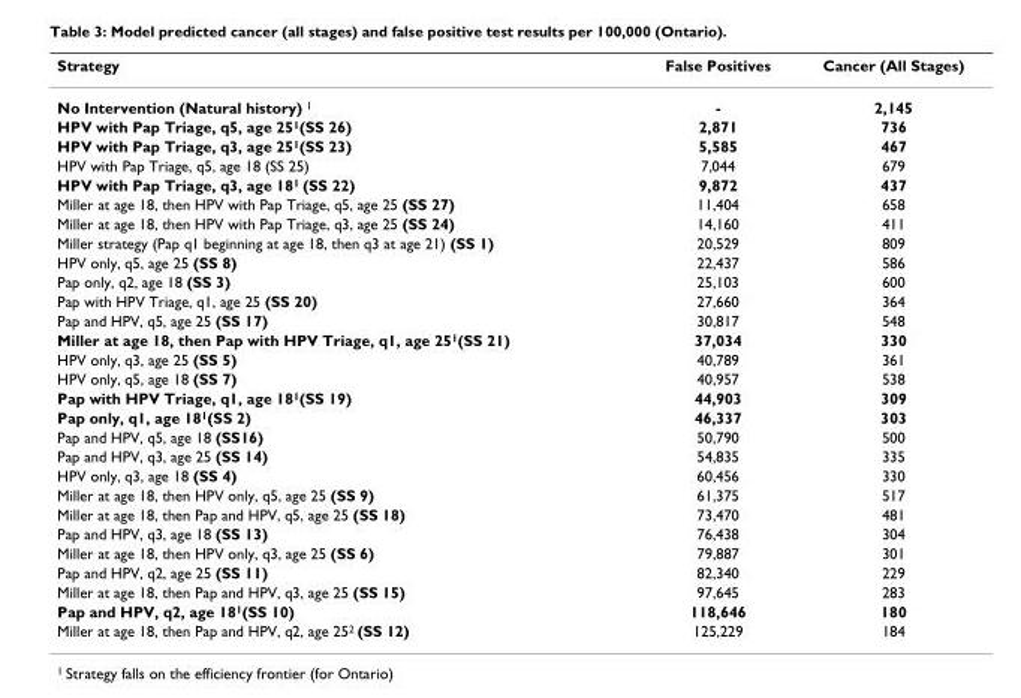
<table><thead><tr><td>Strategy</td><td>False Positives</td><td>Cancer (All Stages)</td></tr></thead><tbody><tr><td>No Intervention (Natural history) <sup>1</sup></td><td>-</td><td>2,145</td></tr><tr><td>HPV with Pap Triage, q5, age 25<sup>1</sup>(SS 26)</td><td>2,871</td><td>736</td></tr><tr><td>HPV with Pap Triage, q3, age 25<sup>1</sup>(SS 23)</td><td>5,585</td><td>467</td></tr><tr><td>HPV with Pap Triage, q5, age 18 (SS 25)</td><td>7,044</td><td>679</td></tr><tr><td>HPV with Pap Triage, q3, age 18<sup>1</sup> (SS 22)</td><td>9,872</td><td>437</td></tr><tr><td>Miller at age 18, then HPV with Pap Triage, q5, age 25 (SS 27)</td><td>11,404</td><td>658</td></tr><tr><td>Miller at age 18, then HPV with Pap Triage, q3, age 25 (SS 24)</td><td>14,160</td><td>411</td></tr><tr><td>Miller strategy (Pap q1 beginning at age 18, then q3 at age 21) (SS 1)</td><td>20,529</td><td>809</td></tr><tr><td>HPV only, q5, age 25 (SS 8)</td><td>22,437</td><td>586</td></tr><tr><td>Pap only, q2, age 18 (SS 3)</td><td>25,103</td><td>600</td></tr><tr><td>Pap with HPV Triage, q1, age 25 (SS 20)</td><td>27,660</td><td>364</td></tr><tr><td>Pap and HPV, q5, age 25 (SS 17)</td><td>30,817</td><td>548</td></tr><tr><td>Miller at age 18, then Pap with HPV Triage, q1, age 25<sup>1</sup>(SS 21)</td><td>37,034</td><td>330</td></tr><tr><td>HPV only, q3, age 25 (SS 5)</td><td>40,789</td><td>361</td></tr><tr><td>HPV only, q5, age 18 (SS 7)</td><td>40,957</td><td>538</td></tr><tr><td>Pap with HPV Triage, q1, age 18<sup>1</sup>(SS 19)</td><td>44,903</td><td>309</td></tr><tr><td>Pap only, q1, age 18<sup>1</sup>(SS 2)</td><td>46,337</td><td>303</td></tr><tr><td>Pap and HPV, q5, age 18 (SS16)</td><td>50,790</td><td>500</td></tr><tr><td>Pap and HPV, q3, age 25 (SS 14)</td><td>54,835</td><td>335</td></tr><tr><td>HPV only, q3, age 18 (SS 4)</td><td>60,456</td><td>330</td></tr><tr><td>Miller at age 18, then HPV only, q5, age 25 (SS 9)</td><td>61,375</td><td>517</td></tr><tr><td>Miller at age 18, then Pap and HPV, q5, age 25 (SS 18)</td><td>73,470</td><td>481</td></tr><tr><td>Pap and HPV, q3, age 18 (SS 13)</td><td>76,438</td><td>304</td></tr><tr><td>Miller at age 18, then HPV only, q3, age 25 (SS 6)</td><td>79,887</td><td>301</td></tr><tr><td>Pap and HPV, q2, age 25 (SS 11)</td><td>82,340</td><td>229</td></tr><tr><td>Miller at age 18, then Pap and HPV, q3, age 25 (SS 15)</td><td>97,645</td><td>283</td></tr><tr><td>Pap and HPV, q2, age 18<sup>1</sup>(SS 10)</td><td>118,646</td><td>180</td></tr><tr><td>Miller at age 18, then Pap and HPV, q2, age 25<sup>2</sup> (SS 12)</td><td>125,229</td><td>184</td></tr></tbody></table>